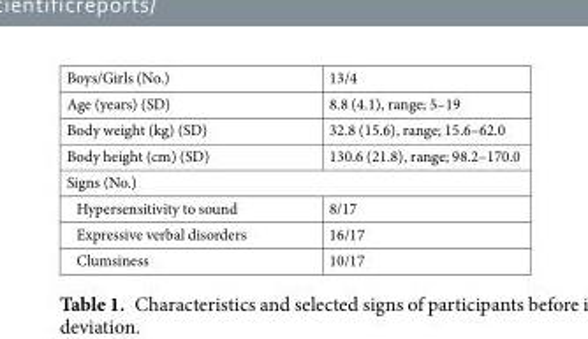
<table><tbody><tr><td>Boys/Girls (No.)</td><td>13/4</td></tr><tr><td>Age (years) (SD)</td><td>8.8 (4.1), range; 5–19</td></tr><tr><td>Body weight (kg) (SD)</td><td>32.8 (15.6), range; 15.6–62.0</td></tr><tr><td>Body height (cm) (SD)</td><td>130.6 (21.8), range; 98.2–170.0</td></tr><tr><td colspan="2">Signs (No.)</td></tr><tr><td>Hypersensitivity to sound</td><td>8/17</td></tr><tr><td>Expressive verbal disorders</td><td>16/17</td></tr><tr><td>Clumsiness</td><td>10/17</td></tr></tbody></table>